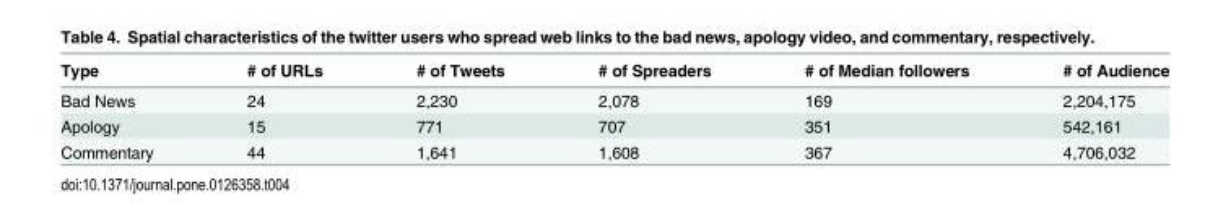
<table><thead><tr><td>Type</td><td># of URLs</td><td># of Tweets</td><td># of Spreaders</td><td># of Median followers</td><td># of Audience</td></tr></thead><tbody><tr><td>Bad News</td><td>24</td><td>2,230</td><td>2,078</td><td>169</td><td>2,204,175</td></tr><tr><td>Apology</td><td>15</td><td>771</td><td>707</td><td>351</td><td>542,161</td></tr><tr><td>Commentary</td><td>44</td><td>1,641</td><td>1,608</td><td>367</td><td>4,706,032</td></tr></tbody></table>